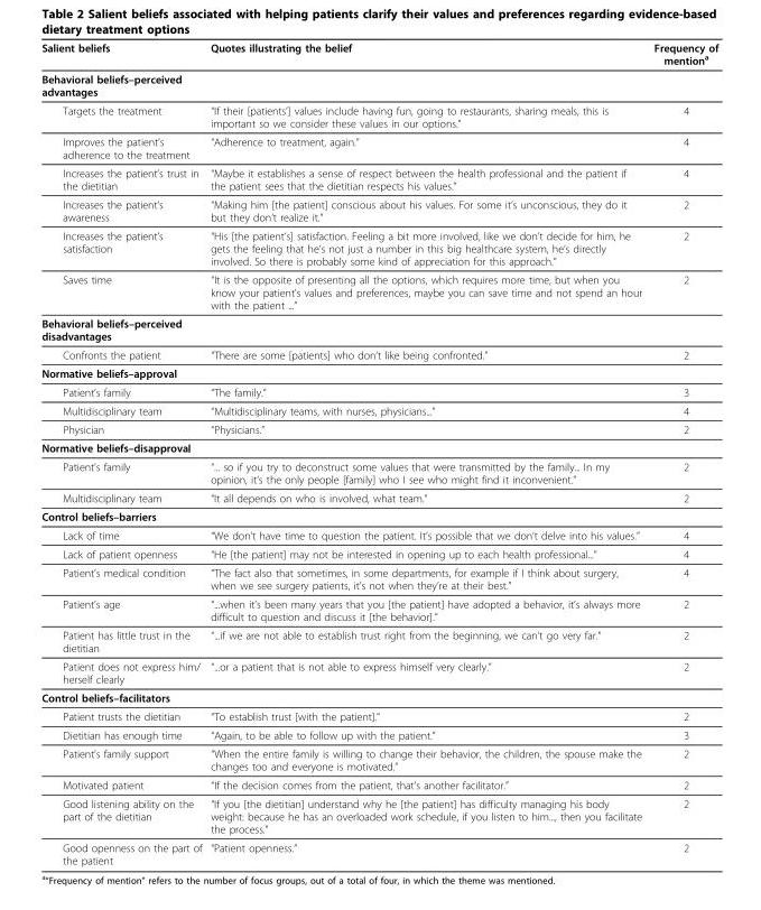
<table><thead><tr><td>Salient beliefs</td><td>Quotes illustrating the belief</td><td>Frequency of mentiona</td></tr></thead><tbody><tr><td colspan="3">Behavioral beliefs–perceived advantages</td></tr><tr><td>Targets the treatment</td><td>“If their [patients’] values include having fun, going to restaurants, sharing meals, this is important so we consider these values in our options.”</td><td>4</td></tr><tr><td>Improves the patient’s adherence to the treatment</td><td>“Adherence to treatment, again.”</td><td>4</td></tr><tr><td>Increases the patient’s trust in the dietitian</td><td>“Maybe it establishes a sense of respect between the health professional and the patient if the patient sees that the dietitian respects his values.”</td><td>4</td></tr><tr><td>Increases the patient’s awareness</td><td>“Making him [the patient] conscious about his values. For some it’s unconscious, they do it but they don’t realize it.”</td><td>2</td></tr><tr><td>Increases the patient’s satisfaction</td><td>“His [the patient’s] satisfaction. Feeling a bit more involved, like we don’t decide for him, he gets the feeling that he’s not just a number in this big healthcare system, he’s directly involved. So there is probably some kind of appreciation for this approach.”</td><td>2</td></tr><tr><td>Saves time</td><td>“It is the opposite of presenting all the options, which requires more time, but when you know your patient’s values and preferences, maybe you can save time and not spend an hour with the patient ...”</td><td>2</td></tr><tr><td colspan="3">Behavioral beliefs–perceived disadvantages</td></tr><tr><td>Confronts the patient</td><td>“There are some [patients] who don’t like being confronted.”</td><td>2</td></tr><tr><td colspan="3">Normative beliefs–approval</td></tr><tr><td>Patient’s family</td><td>“The family.”</td><td>3</td></tr><tr><td>Multidisciplinary team</td><td>“Multidisciplinary teams, with nurses, physicians...”</td><td>4</td></tr><tr><td>Physician</td><td>“Physicians.”</td><td>2</td></tr><tr><td colspan="3">Normative beliefs–disapproval</td></tr><tr><td>Patient’s family</td><td>“... so if you try to deconstruct some values that were transmitted by the family... In my opinion, it’s the only people [family] who I see who might find it inconvenient.”</td><td>2</td></tr><tr><td>Multidisciplinary team</td><td>“It all depends on who is involved, what team.”</td><td>2</td></tr><tr><td colspan="3">Control beliefs–barriers</td></tr><tr><td>Lack of time</td><td>“We don’t have time to question the patient. It’s possible that we don’t delve into his values.”</td><td>4</td></tr><tr><td>Lack of patient openness</td><td>“He [the patient] may not be interested in opening up to each health professional...”</td><td>4</td></tr><tr><td>Patient’s medical condition</td><td>“The fact also that sometimes, in some departments, for example if I think about surgery, when we see surgery patients, it’s not when they’re at their best.”</td><td>4</td></tr><tr><td>Patient’s age</td><td>“...when it’s been many years that you [the patient] have adopted a behavior, it’s always more difficult to question and discuss it [the behavior].”</td><td>2</td></tr><tr><td>Patient has little trust in the dietitian</td><td>“...if we are not able to establish trust right from the beginning, we can’t go very far.”</td><td>2</td></tr><tr><td>Patient does not express him/ herself clearly</td><td>“...or a patient that is not able to express himself very clearly.”</td><td>2</td></tr><tr><td colspan="3">Control beliefs–facilitators</td></tr><tr><td>Patient trusts the dietitian</td><td>“To establish trust [with the patient].”</td><td>2</td></tr><tr><td>Dietitian has enough time</td><td>“Again, to be able to follow up with the patient.”</td><td>3</td></tr><tr><td>Patient’s family support</td><td>“When the entire family is willing to change their behavior, the children, the spouse make the changes too and everyone is motivated.”</td><td>2</td></tr><tr><td>Motivated patient</td><td>“If the decision comes from the patient, that’s another facilitator.”</td><td>2</td></tr><tr><td>Good listening ability on the part of the dietitian</td><td>“If you [the dietitian] understand why he [the patient] has difficulty managing his body weight: because he has an overloaded work schedule, if you listen to him..., then you facilitate the process.”</td><td>2</td></tr><tr><td>Good openness on the part of the patient</td><td>“Patient openness.”</td><td>2</td></tr></tbody></table>